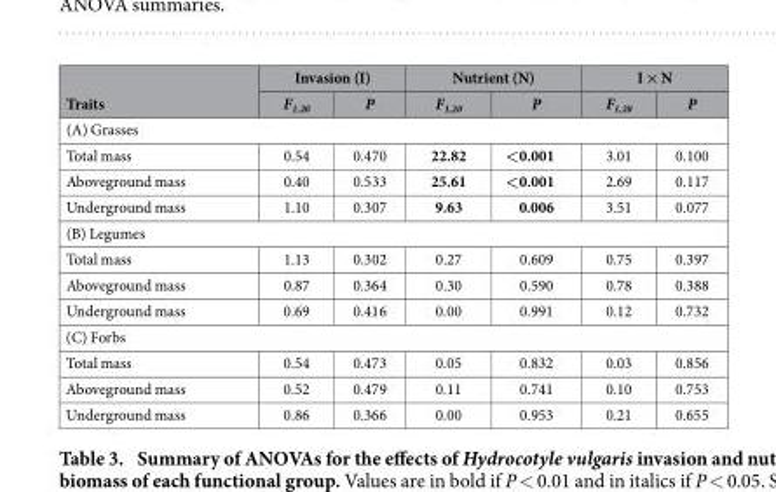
<table><thead><tr><td rowspan="2">Traits</td><td colspan="2">Invasion (I)</td><td colspan="2">Nutrient (N)</td><td colspan="2">I × N</td></tr><tr><td>F<sub>1,20</sub></td><td>P</td><td>F<sub>1,20</sub></td><td>P</td><td>F<sub>1,20</sub></td><td>P</td></tr></thead><tbody><tr><td colspan="7">(A) Grasses</td></tr><tr><td>Total mass</td><td>0.54</td><td>0.470</td><td>22.82</td><td>&lt;0.001</td><td>3.01</td><td>0.100</td></tr><tr><td>Aboveground mass</td><td>0.40</td><td>0.533</td><td>25.61</td><td>&lt;0.001</td><td>2.69</td><td>0.117</td></tr><tr><td>Underground mass</td><td>1.10</td><td>0.307</td><td>9.63</td><td>0.006</td><td>3.51</td><td>0.077</td></tr><tr><td colspan="7">(B) Legumes</td></tr><tr><td>Total mass</td><td>1.13</td><td>0.302</td><td>0.27</td><td>0.609</td><td>0.75</td><td>0.397</td></tr><tr><td>Aboveground mass</td><td>0.87</td><td>0.364</td><td>0.30</td><td>0.590</td><td>0.78</td><td>0.388</td></tr><tr><td>Underground mass</td><td>0.69</td><td>0.416</td><td>0.00</td><td>0.991</td><td>0.12</td><td>0.732</td></tr><tr><td colspan="7">(C) Forbs</td></tr><tr><td>Total mass</td><td>0.54</td><td>0.473</td><td>0.05</td><td>0.832</td><td>0.03</td><td>0.856</td></tr><tr><td>Aboveground mass</td><td>0.52</td><td>0.479</td><td>0.11</td><td>0.741</td><td>0.10</td><td>0.753</td></tr><tr><td>Underground mass</td><td>0.86</td><td>0.366</td><td>0.00</td><td>0.953</td><td>0.21</td><td>0.655</td></tr></tbody></table>